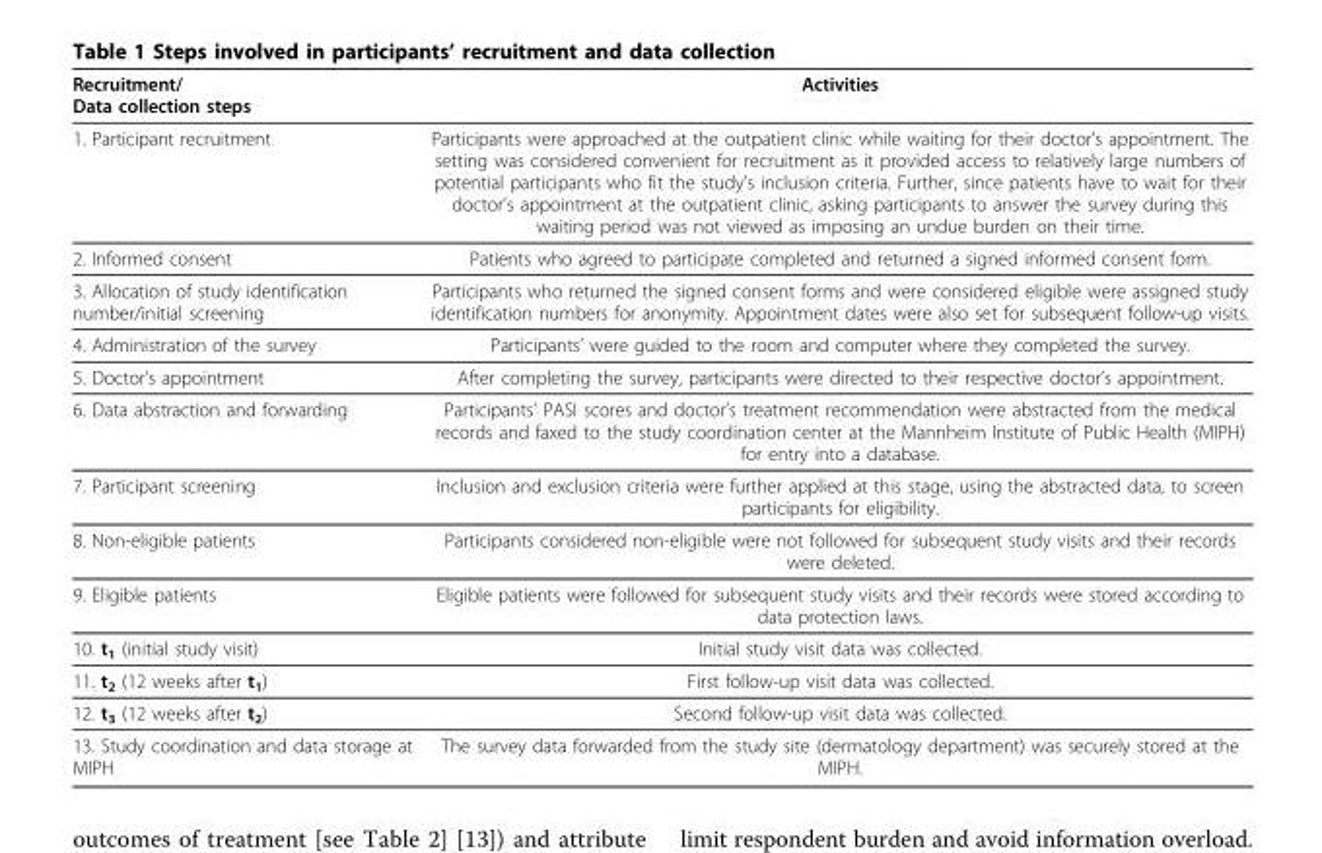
<table><thead><tr><td>Recruitment/ Data collection steps</td><td>Activities</td></tr></thead><tbody><tr><td>1. Participant recruitment</td><td>Participants were approached at the outpatient clinic while waiting for their doctor’s appointment. The setting was considered convenient for recruitment as it provided access to relatively large numbers of potential participants who fit the study’s inclusion criteria. Further, since patients have to wait for their doctor’s appointment at the outpatient clinic, asking participants to answer the survey during this waiting period was not viewed as imposing an undue burden on their time.</td></tr><tr><td>2. Informed consent</td><td>Patients who agreed to participate completed and returned a signed informed consent form.</td></tr><tr><td>3. Allocation of study identification number/initial screening</td><td>Participants who returned the signed consent forms and were considered eligible were assigned study identification numbers for anonymity. Appointment dates were also set for subsequent follow-up visits.</td></tr><tr><td>4. Administration of the survey</td><td>Participants’ were guided to the room and computer where they completed the survey.</td></tr><tr><td>5. Doctor’s appointment</td><td>After completing the survey, participants were directed to their respective doctor’s appointment.</td></tr><tr><td>6. Data abstraction and forwarding</td><td>Participants’ PASI scores and doctor’s treatment recommendation were abstracted from the medical records and faxed to the study coordination center at the Mannheim Institute of Public Health (MIPH) for entry into a database.</td></tr><tr><td>7. Participant screening</td><td>Inclusion and exclusion criteria were further applied at this stage, using the abstracted data, to screen participants for eligibility.</td></tr><tr><td>8. Non-eligible patients</td><td>Participants considered non-eligible were not followed for subsequent study visits and their records were deleted.</td></tr><tr><td>9. Eligible patients</td><td>Eligible patients were followed for subsequent study visits and their records were stored according to data protection laws.</td></tr><tr><td>10. t<sub>1</sub> (initial study visit)</td><td>Initial study visit data was collected.</td></tr><tr><td>11. t<sub>2</sub> (12 weeks after t<sub>1</sub>)</td><td>First follow-up visit data was collected.</td></tr><tr><td>12. t<sub>3</sub> (12 weeks after t<sub>2</sub>)</td><td>Second follow-up visit data was collected.</td></tr><tr><td>13. Study coordination and data storage at MIPH</td><td>The survey data forwarded from the study site (dermatology department) was securely stored at the MIPH.</td></tr></tbody></table>